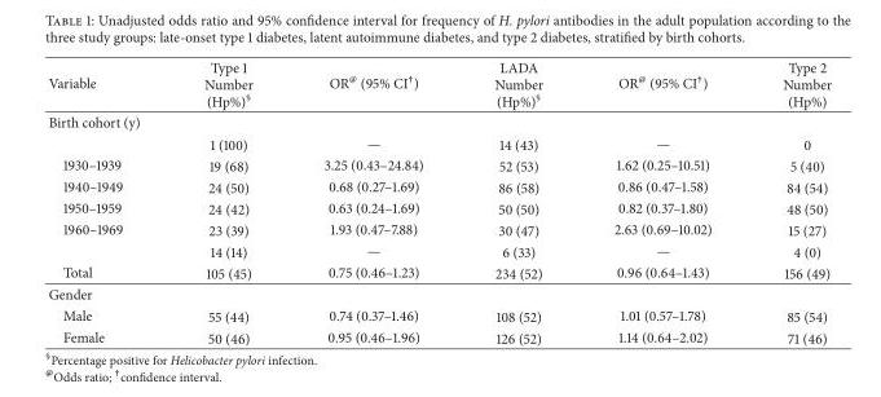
<table><thead><tr><td>Variable</td><td>Type 1 Number (Hp%)<sup>§</sup></td><td>OR<sup>@</sup> (95% CI<sup>†</sup>)</td><td>LADA Number (Hp%)<sup>§</sup></td><td>OR<sup>@</sup> (95% CI<sup>†</sup>)</td><td>Type 2 Number (Hp%)</td></tr></thead><tbody><tr><td colspan="6">Birth cohort (y)</td></tr><tr><td></td><td>1 (100)</td><td>—</td><td>14 (43)</td><td>—</td><td>0</td></tr><tr><td>1930–1939</td><td>19 (68)</td><td>3.25 (0.43–24.84)</td><td>52 (53)</td><td>1.62 (0.25–10.51)</td><td>5 (40)</td></tr><tr><td>1940–1949</td><td>24 (50)</td><td>0.68 (0.27–1.69)</td><td>86 (58)</td><td>0.86 (0.47–1.58)</td><td>84 (54)</td></tr><tr><td>1950–1959</td><td>24 (42)</td><td>0.63 (0.24–1.69)</td><td>50 (50)</td><td>0.82 (0.37–1.80)</td><td>48 (50)</td></tr><tr><td rowspan="2">1960–1969</td><td>23 (39)</td><td>1.93 (0.47–7.88)</td><td>30 (47)</td><td>2.63 (0.69–10.02)</td><td>15 (27)</td></tr><tr><td>14 (14)</td><td>—</td><td>6 (33)</td><td>—</td><td>4 (0)</td></tr><tr><td>Total</td><td>105 (45)</td><td>0.75 (0.46–1.23)</td><td>234 (52)</td><td>0.96 (0.64–1.43)</td><td>156 (49)</td></tr><tr><td colspan="6">Gender</td></tr><tr><td>Male</td><td>55 (44)</td><td>0.74 (0.37–1.46)</td><td>108 (52)</td><td>1.01 (0.57–1.78)</td><td>85 (54)</td></tr><tr><td>Female</td><td>50 (46)</td><td>0.95 (0.46–1.96)</td><td>126 (52)</td><td>1.14 (0.64–2.02)</td><td>71 (46)</td></tr></tbody></table>